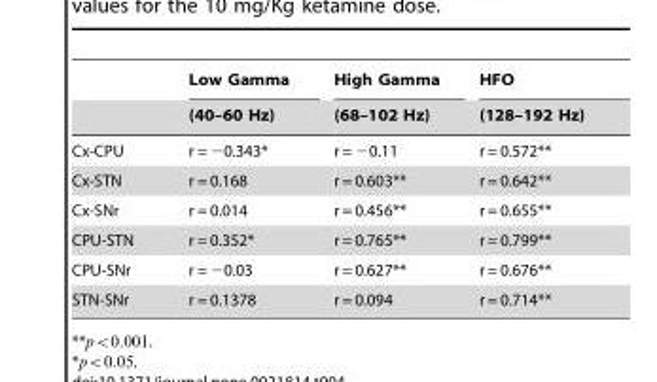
<table><thead><tr><td rowspan="2"></td><td rowspan="2">Low Gamma (40–60 Hz)</td><td rowspan="2">High Gamma (68–102 Hz)</td><td rowspan="2">HFO (128–192 Hz)</td></tr><tr></tr></thead><tbody><tr><td>Cx-CPU</td><td>r = −0.343*</td><td>r = −0.11</td><td>r = 0.572**</td></tr><tr><td>Cx-STN</td><td>r = 0.168</td><td>r = 0.603**</td><td>r = 0.642**</td></tr><tr><td>Cx-SNr</td><td>r = 0.014</td><td>r = 0.456**</td><td>r = 0.655**</td></tr><tr><td>CPU-STN</td><td>r = 0.352*</td><td>r = 0.765**</td><td>r = 0.799**</td></tr><tr><td>CPU-SNr</td><td>r = −0.03</td><td>r = 0.627**</td><td>r = 0.676**</td></tr><tr><td>STN-SNr</td><td>r = 0.1378</td><td>r = 0.094</td><td>r = 0.714**</td></tr></tbody></table>